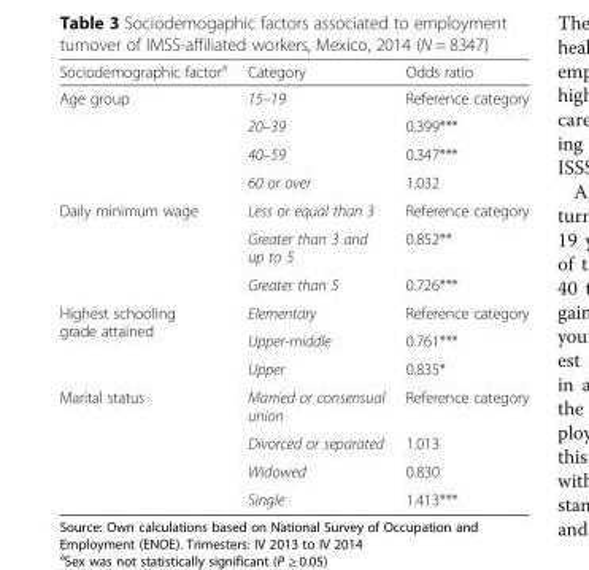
<table><thead><tr><td>Sociodemographic factor<sup>a</sup></td><td>Category</td><td>Odds ratio</td></tr></thead><tbody><tr><td rowspan="4">Age group</td><td>15–19</td><td>Reference category</td></tr><tr><td>20–39</td><td>0.399***</td></tr><tr><td>40–59</td><td>0.347***</td></tr><tr><td>60 or over</td><td>1.032</td></tr><tr><td rowspan="3">Daily minimum wage</td><td>Less or equal than 3</td><td>Reference category</td></tr><tr><td>Greater than 3 and up to 5</td><td>0.852**</td></tr><tr><td>Greater than 5</td><td>0.726***</td></tr><tr><td rowspan="3">Highest schooling grade attained</td><td>Elementary</td><td>Reference category</td></tr><tr><td>Upper-middle</td><td>0.761***</td></tr><tr><td>Upper</td><td>0.835*</td></tr><tr><td rowspan="4">Marital status</td><td>Married or consensual union</td><td>Reference category</td></tr><tr><td>Divorced or separated</td><td>1.013</td></tr><tr><td>Widowed</td><td>0.830</td></tr><tr><td>Single</td><td>1.413***</td></tr></tbody></table>